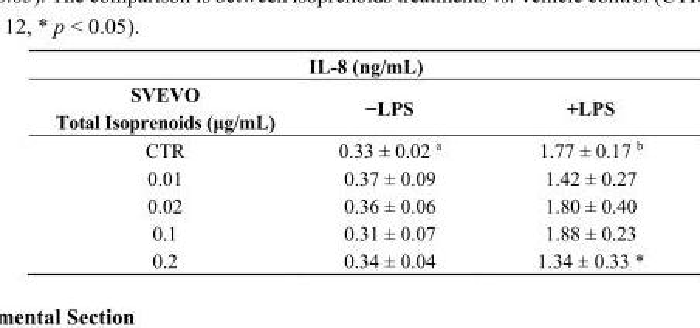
<table><thead><tr><td colspan="3">IL-8 (ng/mL)</td></tr><tr><td>SVEVO Total Isoprenoids (μg/mL)</td><td>−LPS</td><td>+LPS</td></tr></thead><tbody><tr><td>CTR</td><td>0.33 ± 0.02 <sup>a</sup></td><td>1.77 ± 0.17 <sup>b</sup></td></tr><tr><td>0.01</td><td>0.37 ± 0.09</td><td>1.42 ± 0.27</td></tr><tr><td>0.02</td><td>0.36 ± 0.06</td><td>1.80 ± 0.40</td></tr><tr><td>0.1</td><td>0.31 ± 0.07</td><td>1.88 ± 0.23</td></tr><tr><td>0.2</td><td>0.34 ± 0.04</td><td>1.34 ± 0.33 *</td></tr></tbody></table>